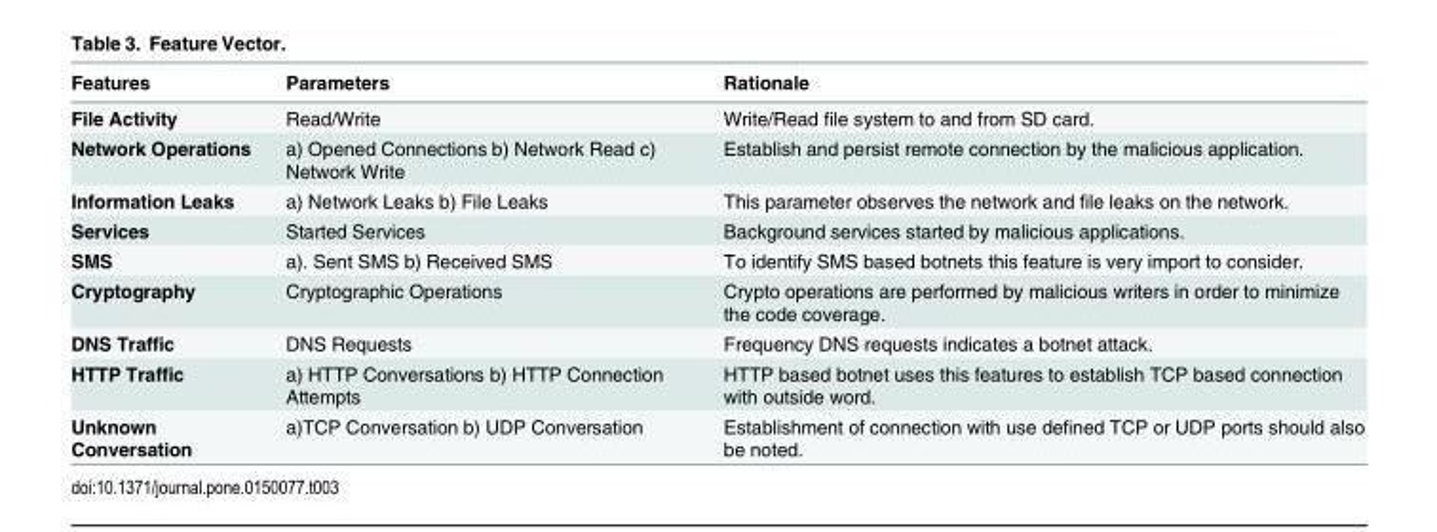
<table><thead><tr><td>Features</td><td>Parameters</td><td>Rationale</td></tr></thead><tbody><tr><td>File Activity</td><td>Read/Write</td><td>Write/Read file system to and from SD card.</td></tr><tr><td>Network Operations</td><td>a) Opened Connections b) Network Read c) Network Write</td><td>Establish and persist remote connection by the malicious application.</td></tr><tr><td>Information Leaks</td><td>a) Network Leaks b) File Leaks</td><td>This parameter observes the network and file leaks on the network.</td></tr><tr><td>Services</td><td>Started Services</td><td>Background services started by malicious applications.</td></tr><tr><td>SMS</td><td>a). Sent SMS b) Received SMS</td><td>To identify SMS based botnets this feature is very import to consider.</td></tr><tr><td>Cryptography</td><td>Cryptographic Operations</td><td>Crypto operations are performed by malicious writers in order to minimize the code coverage.</td></tr><tr><td>DNS Traffic</td><td>DNS Requests</td><td>Frequency DNS requests indicates a botnet attack.</td></tr><tr><td>HTTP Traffic</td><td>a) HTTP Conversations b) HTTP Connection Attempts</td><td>HTTP based botnet uses this features to establish TCP based connection with outside word.</td></tr><tr><td>Unknown Conversation</td><td>a)TCP Conversation b) UDP Conversation</td><td>Establishment of connection with use defined TCP or UDP ports should also be noted.</td></tr></tbody></table>